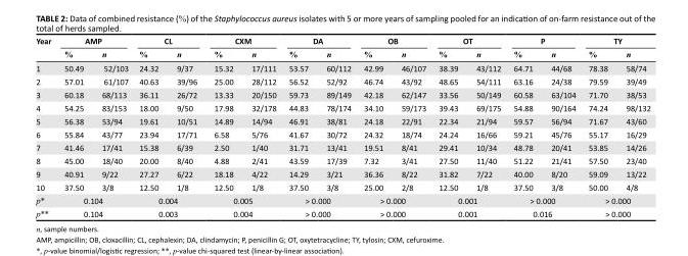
<table><thead><tr><td rowspan="2">Year</td><td colspan="2">AMP</td><td colspan="2">CL</td><td colspan="2">CXM</td><td colspan="2">DA</td><td colspan="2">OB</td><td colspan="2">OT</td><td colspan="2">P</td><td colspan="2">TY</td></tr><tr><td>%</td><td>n</td><td>%</td><td>n</td><td>%</td><td>n</td><td>%</td><td>n</td><td>%</td><td>n</td><td>%</td><td>n</td><td>%</td><td>n</td><td>%</td><td>n</td></tr></thead><tbody><tr><td>1</td><td>50.49</td><td>52/103</td><td>24.32</td><td>9/37</td><td>15.32</td><td>17/111</td><td>53.57</td><td>60/112</td><td>42.99</td><td>46/107</td><td>38.39</td><td>43/112</td><td>64.71</td><td>44/68</td><td>78.38</td><td>58/74</td></tr><tr><td>2</td><td>57.01</td><td>61/107</td><td>40.63</td><td>39/96</td><td>25.00</td><td>28/112</td><td>56.52</td><td>52/92</td><td>46.74</td><td>43/92</td><td>48.65</td><td>54/111</td><td>63.16</td><td>24/38</td><td>79.59</td><td>39/49</td></tr><tr><td>3</td><td>60.18</td><td>68/113</td><td>36.11</td><td>26/72</td><td>13.33</td><td>20/150</td><td>59.73</td><td>89/149</td><td>42.18</td><td>62/147</td><td>33.56</td><td>50/149</td><td>60.58</td><td>63/104</td><td>71.70</td><td>38/53</td></tr><tr><td>4</td><td>54.25</td><td>83/153</td><td>18.00</td><td>9/50</td><td>17.98</td><td>32/178</td><td>44.83</td><td>78/174</td><td>34.10</td><td>59/173</td><td>39.43</td><td>69/175</td><td>54.88</td><td>90/164</td><td>74.24</td><td>98/132</td></tr><tr><td>5</td><td>56.38</td><td>53/94</td><td>19.61</td><td>10/51</td><td>14.89</td><td>14/94</td><td>46.91</td><td>38/81</td><td>24.18</td><td>22/91</td><td>22.34</td><td>21/94</td><td>59.57</td><td>56/94</td><td>71.67</td><td>43/60</td></tr><tr><td>6</td><td>55.84</td><td>43/77</td><td>23.94</td><td>17/71</td><td>6.58</td><td>5/76</td><td>41.67</td><td>30/72</td><td>24.32</td><td>18/74</td><td>24.24</td><td>16/66</td><td>59.21</td><td>45/76</td><td>55.17</td><td>16/29</td></tr><tr><td>7</td><td>41.46</td><td>17/41</td><td>15.38</td><td>6/39</td><td>2.50</td><td>1/40</td><td>31.71</td><td>13/41</td><td>19.51</td><td>8/41</td><td>29.41</td><td>10/34</td><td>48.78</td><td>20/41</td><td>53.85</td><td>14/26</td></tr><tr><td>8</td><td>45.00</td><td>18/40</td><td>20.00</td><td>8/40</td><td>4.88</td><td>2/41</td><td>43.59</td><td>17/39</td><td>7.32</td><td>3/41</td><td>27.50</td><td>11/40</td><td>51.22</td><td>21/41</td><td>57.50</td><td>23/40</td></tr><tr><td>9</td><td>40.91</td><td>9/22</td><td>27.27</td><td>6/22</td><td>18.18</td><td>4/22</td><td>14.29</td><td>3/21</td><td>36.36</td><td>8/22</td><td>31.82</td><td>7/22</td><td>40.00</td><td>8/20</td><td>59.09</td><td>13/22</td></tr><tr><td>10</td><td>37.50</td><td>3/8</td><td>12.50</td><td>1/8</td><td>12.50</td><td>1/8</td><td>37.50</td><td>3/8</td><td>25.00</td><td>2/8</td><td>12.50</td><td>1/8</td><td>37.50</td><td>3/8</td><td>50.00</td><td>4/8</td></tr><tr><td>p*</td><td colspan="2">0.104</td><td colspan="2">0.004</td><td colspan="2">0.005</td><td colspan="2">&gt; 0.000</td><td colspan="2">&gt; 0.000</td><td colspan="2">0.001</td><td colspan="2">&gt; 0.000</td><td colspan="2">&gt; 0.000</td></tr><tr><td>p**</td><td colspan="2">0.104</td><td colspan="2">0.003</td><td colspan="2">0.004</td><td colspan="2">&gt; 0.000</td><td colspan="2">&gt; 0.000</td><td colspan="2">0.001</td><td colspan="2">0.016</td><td colspan="2">&gt; 0.000</td></tr></tbody></table>